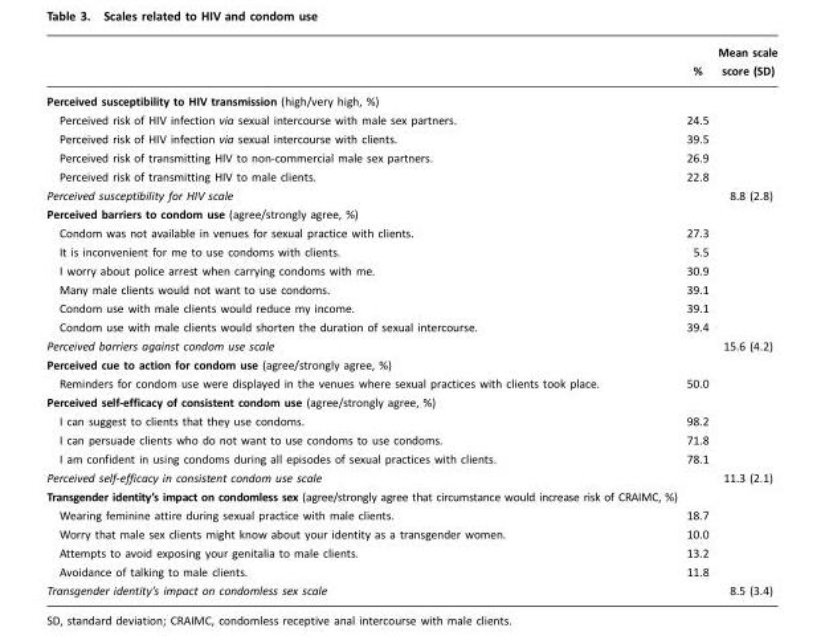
<table><thead><tr><td></td><td>%</td><td>Mean scale score (SD)</td></tr></thead><tbody><tr><td colspan="3">Perceived susceptibility to HIV transmission (high/very high, %)</td></tr><tr><td>Perceived risk of HIV infection via sexual intercourse with male sex partners.</td><td>24.5</td><td></td></tr><tr><td>Perceived risk of HIV infection via sexual intercourse with clients.</td><td>39.5</td><td></td></tr><tr><td>Perceived risk of transmitting HIV to non-commercial male sex partners.</td><td>26.9</td><td></td></tr><tr><td>Perceived risk of transmitting HIV to male clients.</td><td>22.8</td><td></td></tr><tr><td>Perceived susceptibility for HIV scale</td><td></td><td>8.8 (2.8)</td></tr><tr><td colspan="3">Perceived barriers to condom use (agree/strongly agree, %)</td></tr><tr><td>Condom was not available in venues for sexual practice with clients.</td><td>27.3</td><td></td></tr><tr><td>It is inconvenient for me to use condoms with clients.</td><td>5.5</td><td></td></tr><tr><td>I worry about police arrest when carrying condoms with me.</td><td>30.9</td><td></td></tr><tr><td>Many male clients would not want to use condoms.</td><td>39.1</td><td></td></tr><tr><td>Condom use with male clients would reduce my income.</td><td>39.1</td><td></td></tr><tr><td>Condom use with male clients would shorten the duration of sexual intercourse.</td><td>39.4</td><td></td></tr><tr><td>Perceived barriers against condom use scale</td><td></td><td>15.6 (4.2)</td></tr><tr><td colspan="3">Perceived cue to action for condom use (agree/strongly agree, %)</td></tr><tr><td>Reminders for condom use were displayed in the venues where sexual practices with clients took place.</td><td>50.0</td><td></td></tr><tr><td colspan="3">Perceived self-efficacy of consistent condom use (agree/strongly agree, %)</td></tr><tr><td>I can suggest to clients that they use condoms.</td><td>98.2</td><td></td></tr><tr><td>I can persuade clients who do not want to use condoms to use condoms.</td><td>71.8</td><td></td></tr><tr><td>I am confident in using condoms during all episodes of sexual practices with clients.</td><td>78.1</td><td></td></tr><tr><td>Perceived self-efficacy in consistent condom use scale</td><td></td><td>11.3 (2.1)</td></tr><tr><td colspan="3">Transgender identity’s impact on condomless sex (agree/strongly agree that circumstance would increase risk of CRAIMC, %)</td></tr><tr><td>Wearing feminine attire during sexual practice with male clients.</td><td>18.7</td><td></td></tr><tr><td>Worry that male sex clients might know about your identity as a transgender women.</td><td>10.0</td><td></td></tr><tr><td>Attempts to avoid exposing your genitalia to male clients.</td><td>13.2</td><td></td></tr><tr><td>Avoidance of talking to male clients.</td><td>11.8</td><td></td></tr><tr><td>Transgender identity’s impact on condomless sex scale</td><td></td><td>8.5 (3.4)</td></tr></tbody></table>